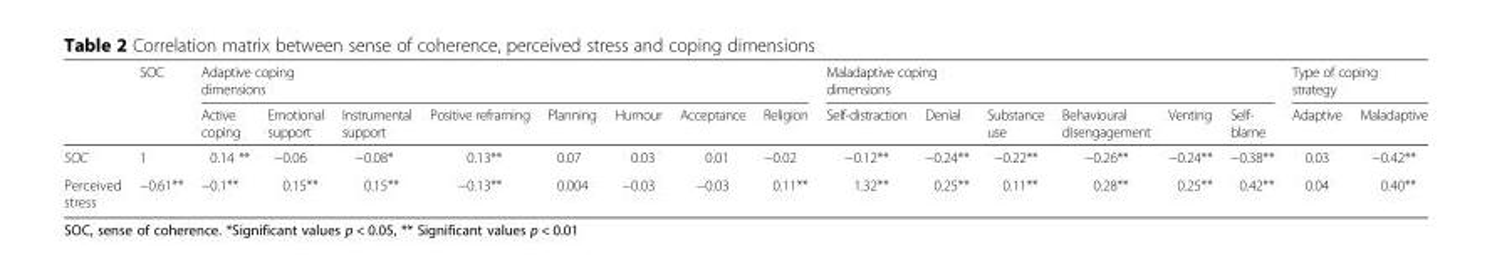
<table><thead><tr><td rowspan="2"></td><td rowspan="2">SOC</td><td colspan="8">Adaptive coping dimensions</td><td colspan="6">Maladaptive coping dimensions</td><td colspan="2">Type of coping strategy</td></tr><tr><td>Active coping</td><td>Emotional support</td><td>Instrumental support</td><td>Positive reframing</td><td>Planning</td><td>Humour</td><td>Acceptance</td><td>Religion</td><td>Self-distraction</td><td>Denial</td><td>Substance use</td><td>Behavioural disengagement</td><td>Venting</td><td>Self- blame</td><td>Adaptive</td><td>Maladaptive</td></tr></thead><tbody><tr><td>SOC</td><td>1</td><td>0.14 **</td><td>−0.06</td><td>−0.08*</td><td>0.13**</td><td>0.07</td><td>0.03</td><td>0.01</td><td>−0.02</td><td>−0.12**</td><td>−0.24**</td><td>−0.22**</td><td>−0.26**</td><td>−0.24**</td><td>−0.38**</td><td>0.03</td><td>−0.42**</td></tr><tr><td>Perceived stress</td><td>−0.61**</td><td>−0.1**</td><td>0.15**</td><td>0.15**</td><td>−0.13**</td><td>0.004</td><td>−0.03</td><td>−0.03</td><td>0.11**</td><td>1.32**</td><td>0.25**</td><td>0.11**</td><td>0.28**</td><td>0.25**</td><td>0.42**</td><td>0.04</td><td>0.40**</td></tr></tbody></table>